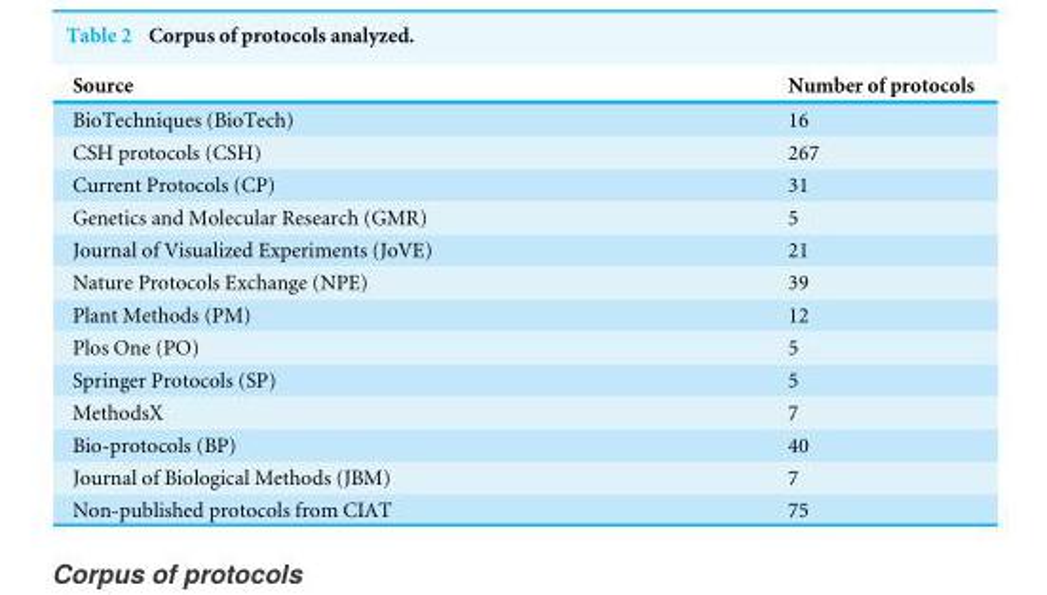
<table><thead><tr><td>Source</td><td>Number of protocols</td></tr></thead><tbody><tr><td>BioTechniques (BioTech)</td><td>16</td></tr><tr><td>CSH protocols (CSH)</td><td>267</td></tr><tr><td>Current Protocols (CP)</td><td>31</td></tr><tr><td>Genetics and Molecular Research (GMR)</td><td>5</td></tr><tr><td>Journal of Visualized Experiments (JoVE)</td><td>21</td></tr><tr><td>Nature Protocols Exchange (NPE)</td><td>39</td></tr><tr><td>Plant Methods (PM)</td><td>12</td></tr><tr><td>Plos One (PO)</td><td>5</td></tr><tr><td>Springer Protocols (SP)</td><td>5</td></tr><tr><td>MethodsX</td><td>7</td></tr><tr><td>Bio-protocols (BP)</td><td>40</td></tr><tr><td>Journal of Biological Methods (JBM)</td><td>7</td></tr><tr><td>Non-published protocols from CIAT</td><td>75</td></tr></tbody></table>